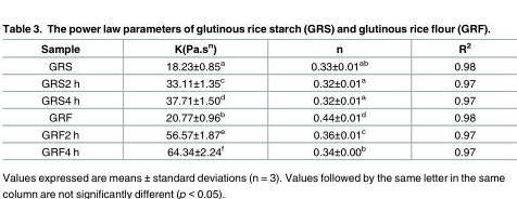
<table><thead><tr><td>Sample</td><td>K(Pa.s<sup>n</sup>)</td><td>n</td><td>R<sup>2</sup></td></tr></thead><tbody><tr><td>GRS</td><td>18.23±0.85<sup>a</sup></td><td>0.33±0.01<sup>ab</sup></td><td>0.98</td></tr><tr><td>GRS2 h</td><td>33.11±1.35<sup>c</sup></td><td>0.32±0.01<sup>a</sup></td><td>0.97</td></tr><tr><td>GRS4 h</td><td>37.71±1.50<sup>d</sup></td><td>0.32±0.01<sup>a</sup></td><td>0.97</td></tr><tr><td>GRF</td><td>20.77±0.96<sup>b</sup></td><td>0.44±0.01<sup>d</sup></td><td>0.98</td></tr><tr><td>GRF2 h</td><td>56.57±1.87<sup>e</sup></td><td>0.36±0.01<sup>c</sup></td><td>0.97</td></tr><tr><td>GRF4 h</td><td>64.34±2.24<sup>f</sup></td><td>0.34±0.00<sup>b</sup></td><td>0.97</td></tr></tbody></table>